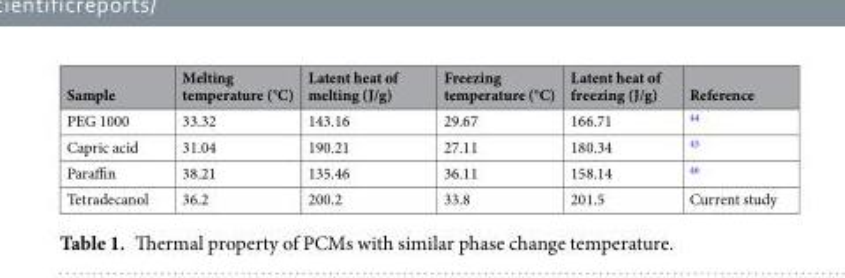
<table><thead><tr><td>Sample</td><td>Melting temperature (°C)</td><td>Latent heat of melting (J/g)</td><td>Freezing temperature (°C)</td><td>Latent heat of freezing (J/g)</td><td>Reference</td></tr></thead><tbody><tr><td>PEG 1000</td><td>33.32</td><td>143.16</td><td>29.67</td><td>166.71</td><td><sup>44</sup></td></tr><tr><td>Capric acid</td><td>31.04</td><td>190.21</td><td>27.11</td><td>180.34</td><td><sup>45</sup></td></tr><tr><td>Paraffin</td><td>38.21</td><td>135.46</td><td>36.11</td><td>158.14</td><td><sup>46</sup></td></tr><tr><td>Tetradecanol</td><td>36.2</td><td>200.2</td><td>33.8</td><td>201.5</td><td>Current study</td></tr></tbody></table>